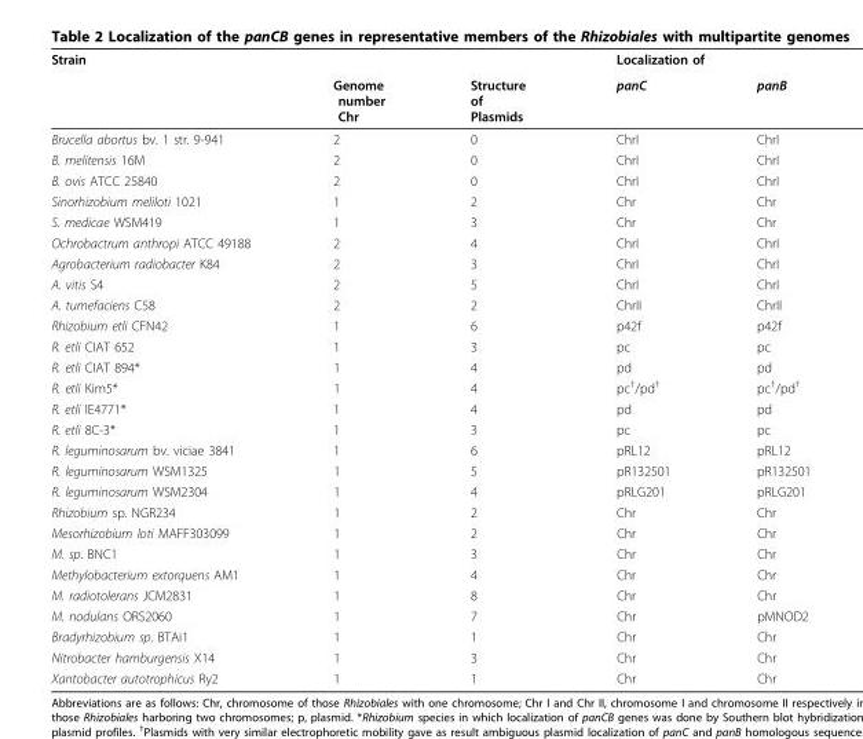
<table><thead><tr><td rowspan="2">Strain</td><td rowspan="2">Genome number Chr</td><td rowspan="2">Structure of Plasmids</td><td colspan="2">Localization of</td></tr><tr><td>panC</td><td>panB</td></tr></thead><tbody><tr><td>Brucella abortus bv. 1 str. 9-941</td><td>2</td><td>0</td><td>ChrI</td><td>ChrI</td></tr><tr><td>B. melitensis 16M</td><td>2</td><td>0</td><td>ChrI</td><td>ChrI</td></tr><tr><td>B. ovis ATCC 25840</td><td>2</td><td>0</td><td>ChrI</td><td>ChrI</td></tr><tr><td>Sinorhizobium meliloti 1021</td><td>1</td><td>2</td><td>Chr</td><td>Chr</td></tr><tr><td>S. medicae WSM419</td><td>1</td><td>3</td><td>Chr</td><td>Chr</td></tr><tr><td>Ochrobactrum anthropi ATCC 49188</td><td>2</td><td>4</td><td>ChrI</td><td>ChrI</td></tr><tr><td>Agrobacterium radiobacter K84</td><td>2</td><td>3</td><td>ChrI</td><td>ChrI</td></tr><tr><td>A. vitis S4</td><td>2</td><td>5</td><td>ChrI</td><td>ChrI</td></tr><tr><td>A. tumefaciens C58</td><td>2</td><td>2</td><td>ChrII</td><td>ChrII</td></tr><tr><td>Rhizobium etli CFN42</td><td>1</td><td>6</td><td>p42f</td><td>p42f</td></tr><tr><td>R. etli CIAT 652</td><td>1</td><td>3</td><td>pc</td><td>pc</td></tr><tr><td>R. etli CIAT 894*</td><td>1</td><td>4</td><td>pd</td><td>pd</td></tr><tr><td>R. etli Kim5*</td><td>1</td><td>4</td><td>pc<sup>†</sup>/pd<sup>†</sup></td><td>pc<sup>†</sup>/pd<sup>†</sup></td></tr><tr><td>R. etli IE4771*</td><td>1</td><td>4</td><td>pd</td><td>pd</td></tr><tr><td>R. etli 8C-3*</td><td>1</td><td>3</td><td>pc</td><td>pc</td></tr><tr><td>R. leguminosarum bv. viciae 3841</td><td>1</td><td>6</td><td>pRL12</td><td>pRL12</td></tr><tr><td>R. leguminosarum WSM1325</td><td>1</td><td>5</td><td>pR132501</td><td>pR132501</td></tr><tr><td>R. leguminosarum WSM2304</td><td>1</td><td>4</td><td>pRLG201</td><td>pRLG201</td></tr><tr><td>Rhizobium sp. NGR234</td><td>1</td><td>2</td><td>Chr</td><td>Chr</td></tr><tr><td>Mesorhizobium loti MAFF303099</td><td>1</td><td>2</td><td>Chr</td><td>Chr</td></tr><tr><td>M. sp. BNC1</td><td>1</td><td>3</td><td>Chr</td><td>Chr</td></tr><tr><td>Methylobacterium extorquens AM1</td><td>1</td><td>4</td><td>Chr</td><td>Chr</td></tr><tr><td>M. radiotolerans JCM2831</td><td>1</td><td>8</td><td>Chr</td><td>Chr</td></tr><tr><td>M. nodulans ORS2060</td><td>1</td><td>7</td><td>Chr</td><td>pMNOD2</td></tr><tr><td>Bradyrhizobium sp. BTAi1</td><td>1</td><td>1</td><td>Chr</td><td>Chr</td></tr><tr><td>Nitrobacter hamburgensis X14</td><td>1</td><td>3</td><td>Chr</td><td>Chr</td></tr><tr><td>Xantobacter autotrophicus Ry2</td><td>1</td><td>1</td><td>Chr</td><td>Chr</td></tr></tbody></table>